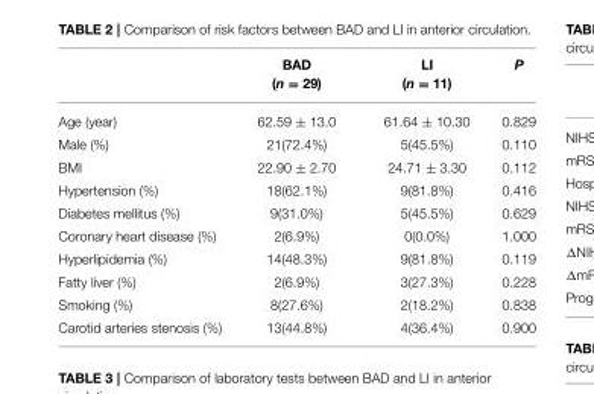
<table><thead><tr><td></td><td>BAD (n = 29)</td><td>LI (n = 11)</td><td>P</td></tr></thead><tbody><tr><td>Age (year)</td><td>62.59 ± 13.0</td><td>61.64 ± 10.30</td><td>0.829</td></tr><tr><td>Male (%)</td><td>21(72.4%)</td><td>5(45.5%)</td><td>0.110</td></tr><tr><td>BMI</td><td>22.90 ± 2.70</td><td>24.71 ± 3.30</td><td>0.112</td></tr><tr><td>Hypertension (%)</td><td>18(62.1%)</td><td>9(81.8%)</td><td>0.416</td></tr><tr><td>Diabetes mellitus (%)</td><td>9(31.0%)</td><td>5(45.5%)</td><td>0.629</td></tr><tr><td>Coronary heart disease (%)</td><td>2(6.9%)</td><td>0(0.0%)</td><td>1.000</td></tr><tr><td>Hyperlipidemia (%)</td><td>14(48.3%)</td><td>9(81.8%)</td><td>0.119</td></tr><tr><td>Fatty liver (%)</td><td>2(6.9%)</td><td>3(27.3%)</td><td>0.228</td></tr><tr><td>Smoking (%)</td><td>8(27.6%)</td><td>2(18.2%)</td><td>0.838</td></tr><tr><td>Carotid arteries stenosis (%)</td><td>13(44.8%)</td><td>4(36.4%)</td><td>0.900</td></tr></tbody></table>